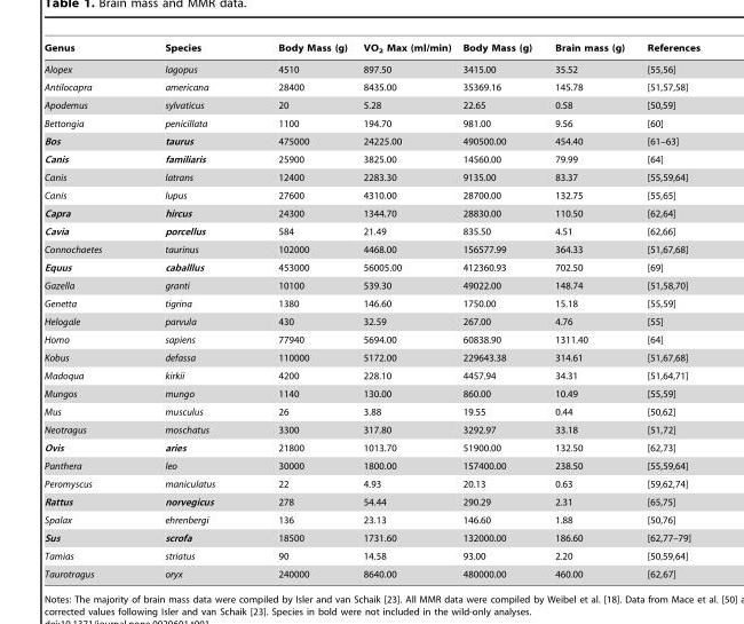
<table><thead><tr><td>Genus</td><td>Species</td><td>Body Mass (g)</td><td>VO<sub>2</sub> Max (ml/min)</td><td>Body Mass (g)</td><td>Brain mass (g)</td><td>References</td></tr></thead><tbody><tr><td>Alopex</td><td>lagopus</td><td>4510</td><td>897.50</td><td>3415.00</td><td>35.52</td><td>[55,56]</td></tr><tr><td>Antilocapra</td><td>americana</td><td>28400</td><td>8435.00</td><td>35369.16</td><td>145.78</td><td>[51,57,58]</td></tr><tr><td>Apodemus</td><td>sylvaticus</td><td>20</td><td>5.28</td><td>22.65</td><td>0.58</td><td>[50,59]</td></tr><tr><td>Bettongia</td><td>penicillata</td><td>1100</td><td>194.70</td><td>981.00</td><td>9.56</td><td>[60]</td></tr><tr><td>Bos</td><td>taurus</td><td>475000</td><td>24225.00</td><td>490500.00</td><td>454.40</td><td>[61–63]</td></tr><tr><td>Canis</td><td>familiaris</td><td>25900</td><td>3825.00</td><td>14560.00</td><td>79.99</td><td>[64]</td></tr><tr><td>Canis</td><td>latrans</td><td>12400</td><td>2283.30</td><td>9135.00</td><td>83.37</td><td>[55,59,64]</td></tr><tr><td>Canis</td><td>lupus</td><td>27600</td><td>4310.00</td><td>28700.00</td><td>132.75</td><td>[55,65]</td></tr><tr><td>Capra</td><td>hircus</td><td>24300</td><td>1344.70</td><td>28830.00</td><td>110.50</td><td>[62,64]</td></tr><tr><td>Cavia</td><td>porcellus</td><td>584</td><td>21.49</td><td>835.50</td><td>4.51</td><td>[62,66]</td></tr><tr><td>Connochaetes</td><td>taurinus</td><td>102000</td><td>4468.00</td><td>156577.99</td><td>364.33</td><td>[51,67,68]</td></tr><tr><td>Equus</td><td>caballlus</td><td>453000</td><td>56005.00</td><td>412360.93</td><td>702.50</td><td>[69]</td></tr><tr><td>Gazella</td><td>granti</td><td>10100</td><td>539.30</td><td>49022.00</td><td>148.74</td><td>[51,58,70]</td></tr><tr><td>Genetta</td><td>tigrina</td><td>1380</td><td>146.60</td><td>1750.00</td><td>15.18</td><td>[55,59]</td></tr><tr><td>Helogale</td><td>parvula</td><td>430</td><td>32.59</td><td>267.00</td><td>4.76</td><td>[55]</td></tr><tr><td>Homo</td><td>sapiens</td><td>77940</td><td>5694.00</td><td>60838.90</td><td>1311.40</td><td>[64]</td></tr><tr><td>Kobus</td><td>defassa</td><td>110000</td><td>5172.00</td><td>229643.38</td><td>314.61</td><td>[51,67,68]</td></tr><tr><td>Madoqua</td><td>kirkii</td><td>4200</td><td>228.10</td><td>4457.94</td><td>34.31</td><td>[51,64,71]</td></tr><tr><td>Mungos</td><td>mungo</td><td>1140</td><td>130.00</td><td>860.00</td><td>10.49</td><td>[55,59]</td></tr><tr><td>Mus</td><td>musculus</td><td>26</td><td>3.88</td><td>19.55</td><td>0.44</td><td>[50,62]</td></tr><tr><td>Neotragus</td><td>moschatus</td><td>3300</td><td>317.80</td><td>3292.97</td><td>33.18</td><td>[51,72]</td></tr><tr><td>Ovis</td><td>aries</td><td>21800</td><td>1013.70</td><td>51900.00</td><td>132.50</td><td>[62,73]</td></tr><tr><td>Panthera</td><td>leo</td><td>30000</td><td>1800.00</td><td>157400.00</td><td>238.50</td><td>[55,59,64]</td></tr><tr><td>Peromyscus</td><td>maniculatus</td><td>22</td><td>4.93</td><td>20.13</td><td>0.63</td><td>[59,62,74]</td></tr><tr><td>Rattus</td><td>norvegicus</td><td>278</td><td>54.44</td><td>290.29</td><td>2.31</td><td>[65,75]</td></tr><tr><td>Spalax</td><td>ehrenbergi</td><td>136</td><td>23.13</td><td>146.60</td><td>1.88</td><td>[50,76]</td></tr><tr><td>Sus</td><td>scrofa</td><td>18500</td><td>1731.60</td><td>132000.00</td><td>186.60</td><td>[62,77–79]</td></tr><tr><td>Tamias</td><td>striatus</td><td>90</td><td>14.58</td><td>93.00</td><td>2.20</td><td>[50,59,64]</td></tr><tr><td>Taurotragus</td><td>oryx</td><td>240000</td><td>8640.00</td><td>480000.00</td><td>460.00</td><td>[62,67]</td></tr></tbody></table>